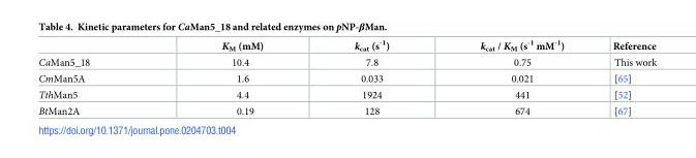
<table><thead><tr><td></td><td>K<sub>M</sub> (mM)</td><td>k<sub>cat</sub> (s<sup>-1</sup>)</td><td>k<sub>cat</sub> / K<sub>M</sub> (s<sup>-1</sup> mM<sup>-1</sup>)</td><td>Reference</td></tr></thead><tbody><tr><td>CaMan5_18</td><td>10.4</td><td>7.8</td><td>0.75</td><td>This work</td></tr><tr><td>CmMan5A</td><td>1.6</td><td>0.033</td><td>0.021</td><td>[65]</td></tr><tr><td>TthMan5</td><td>4.4</td><td>1924</td><td>441</td><td>[52]</td></tr><tr><td>BtMan2A</td><td>0.19</td><td>128</td><td>674</td><td>[67]</td></tr></tbody></table>